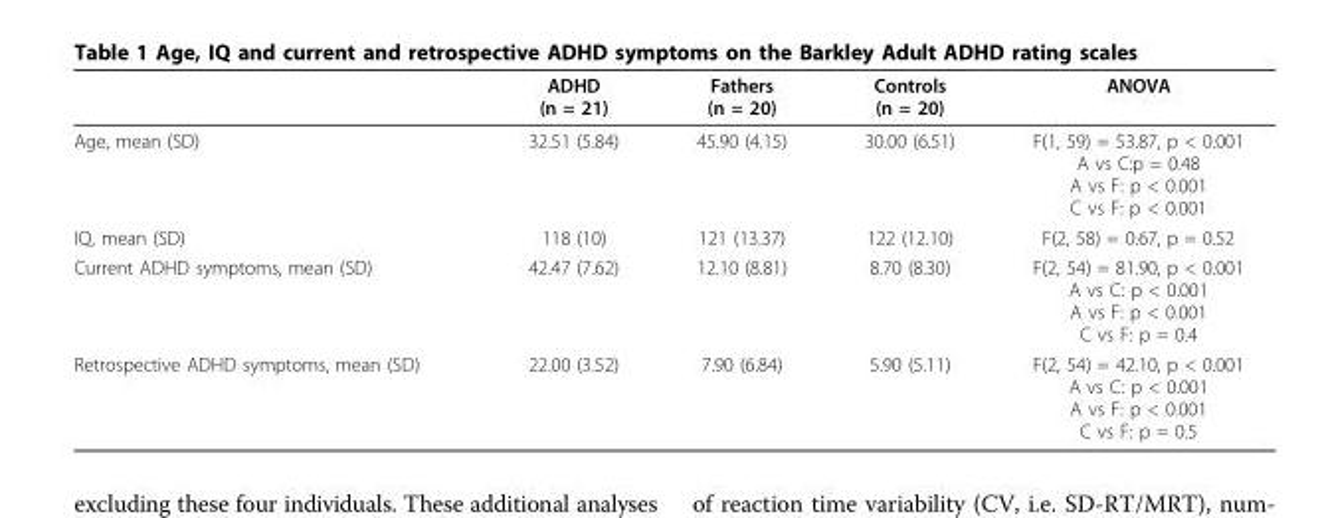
<table><thead><tr><td></td><td>ADHD (n = 21)</td><td>Fathers (n = 20)</td><td>Controls (n = 20)</td><td>ANOVA</td></tr></thead><tbody><tr><td>Age, mean (SD)</td><td>32.51 (5.84)</td><td>45.90 (4.15)</td><td>30.00 (6.51)</td><td>F(1, 59) = 53.87, p &lt; 0.001 A vs C:p = 0.48 A vs F: p &lt; 0.001 C vs F: p &lt; 0.001</td></tr><tr><td>IQ, mean (SD)</td><td>118 (10)</td><td>121 (13.37)</td><td>122 (12.10)</td><td>F(2, 58) = 0.67, p = 0.52</td></tr><tr><td>Current ADHD symptoms, mean (SD)</td><td>42.47 (7.62)</td><td>12.10 (8.81)</td><td>8.70 (8.30)</td><td>F(2, 54) = 81.90, p &lt; 0.001 A vs C: p &lt; 0.001 A vs F: p &lt; 0.001 C vs F: p = 0.4</td></tr><tr><td>Retrospective ADHD symptoms, mean (SD)</td><td>22.00 (3.52)</td><td>7.90 (6.84)</td><td>5.90 (5.11)</td><td>F(2, 54) = 42.10, p &lt; 0.001 A vs C: p &lt; 0.001 A vs F: p &lt; 0.001 C vs F: p = 0.5</td></tr></tbody></table>